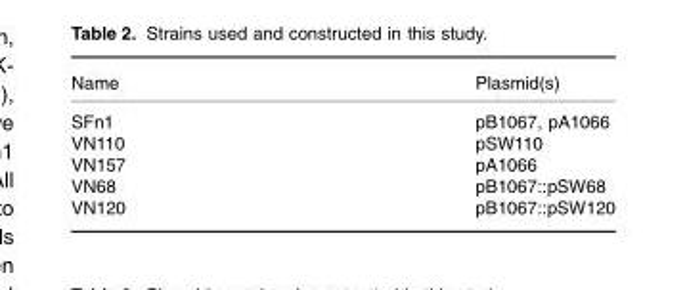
<table><thead><tr><td>Name</td><td>Plasmid(s)</td></tr></thead><tbody><tr><td>SFn1</td><td>pB1067, pA1066</td></tr><tr><td>VN110</td><td>pSW110</td></tr><tr><td>VN157</td><td>pA1066</td></tr><tr><td>VN68</td><td>pB1067::pSW68</td></tr><tr><td>VN120</td><td>pB1067::pSW120</td></tr></tbody></table>